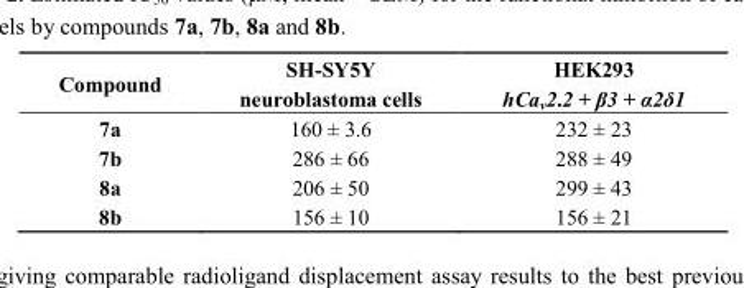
<table><thead><tr><td rowspan="2">Compound</td><td rowspan="2">SH-SY5Y neuroblastoma cells</td><td rowspan="2">HEK293 hCa<sub>v</sub>2.2 + β3 + α2δ1</td></tr><tr></tr></thead><tbody><tr><td>7a</td><td>160 ± 3.6</td><td>232 ± 23</td></tr><tr><td>7b</td><td>286 ± 66</td><td>288 ± 49</td></tr><tr><td>8a</td><td>206 ± 50</td><td>299 ± 43</td></tr><tr><td>8b</td><td>156 ± 10</td><td>156 ± 21</td></tr></tbody></table>